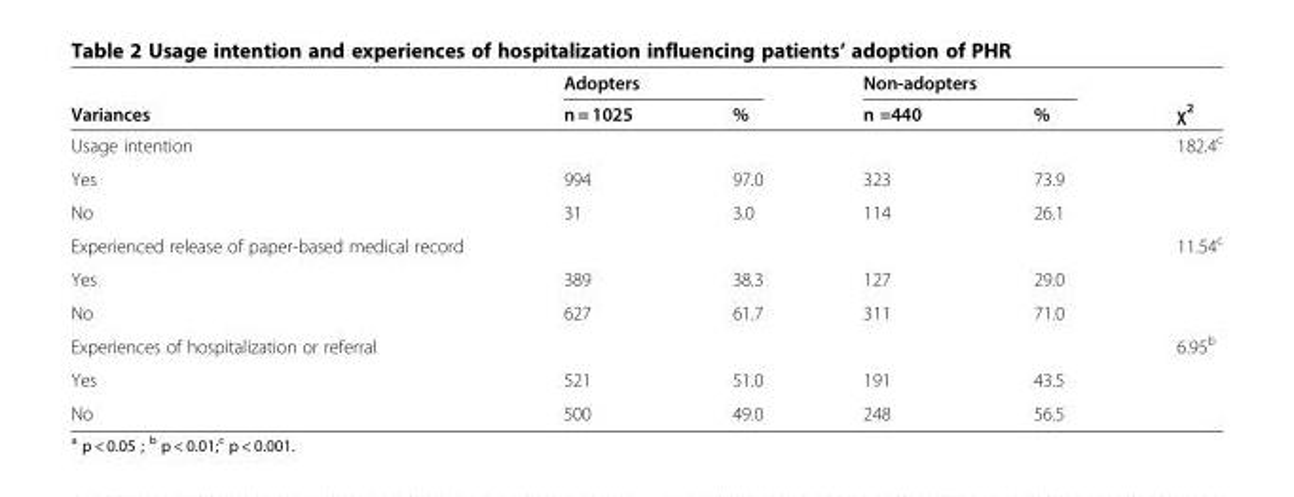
<table><thead><tr><td rowspan="2">Variances</td><td colspan="2">Adopters</td><td colspan="2">Non-adopters</td><td rowspan="2">χ<sup>2</sup></td></tr><tr><td>n = 1025</td><td>%</td><td>n =440</td><td>%</td></tr></thead><tbody><tr><td>Usage intention</td><td></td><td></td><td></td><td></td><td>182.4<sup>c</sup></td></tr><tr><td>Yes</td><td>994</td><td>97.0</td><td>323</td><td>73.9</td><td></td></tr><tr><td>No</td><td>31</td><td>3.0</td><td>114</td><td>26.1</td><td></td></tr><tr><td>Experienced release of paper-based medical record</td><td></td><td></td><td></td><td></td><td>11.54<sup>c</sup></td></tr><tr><td>Yes</td><td>389</td><td>38.3</td><td>127</td><td>29.0</td><td></td></tr><tr><td>No</td><td>627</td><td>61.7</td><td>311</td><td>71.0</td><td></td></tr><tr><td>Experiences of hospitalization or referral</td><td></td><td></td><td></td><td></td><td>6.95<sup>b</sup></td></tr><tr><td>Yes</td><td>521</td><td>51.0</td><td>191</td><td>43.5</td><td></td></tr><tr><td>No</td><td>500</td><td>49.0</td><td>248</td><td>56.5</td><td></td></tr></tbody></table>